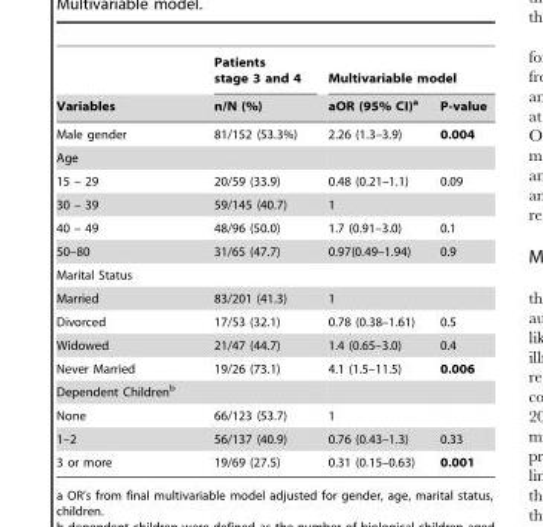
<table><thead><tr><td rowspan="2">Variables</td><td rowspan="2">Patients stage 3 and 4 n/N (%)</td><td colspan="2">Multivariable model</td></tr><tr><td>aOR (95% CI)<sup>a</sup></td><td>P-value</td></tr></thead><tbody><tr><td>Male gender</td><td>81/152 (53.3%)</td><td>2.26 (1.3–3.9)</td><td>0.004</td></tr><tr><td colspan="4">Age</td></tr><tr><td>15 – 29</td><td>20/59 (33.9)</td><td>0.48 (0.21–1.1)</td><td>0.09</td></tr><tr><td>30 – 39</td><td>59/145 (40.7)</td><td>1</td><td></td></tr><tr><td>40 – 49</td><td>48/96 (50.0)</td><td>1.7 (0.91–3.0)</td><td>0.1</td></tr><tr><td>50–80</td><td>31/65 (47.7)</td><td>0.97(0.49–1.94)</td><td>0.9</td></tr><tr><td colspan="4">Marital Status</td></tr><tr><td>Married</td><td>83/201 (41.3)</td><td>1</td><td></td></tr><tr><td>Divorced</td><td>17/53 (32.1)</td><td>0.78 (0.38–1.61)</td><td>0.5</td></tr><tr><td>Widowed</td><td>21/47 (44.7)</td><td>1.4 (0.65–3.0)</td><td>0.4</td></tr><tr><td>Never Married</td><td>19/26 (73.1)</td><td>4.1 (1.5–11.5)</td><td>0.006</td></tr><tr><td colspan="4">Dependent Children<sup>b</sup></td></tr><tr><td>None</td><td>66/123 (53.7)</td><td>1</td><td></td></tr><tr><td>1–2</td><td>56/137 (40.9)</td><td>0.76 (0.43–1.3)</td><td>0.33</td></tr><tr><td>3 or more</td><td>19/69 (27.5)</td><td>0.31 (0.15–0.63)</td><td>0.001</td></tr></tbody></table>